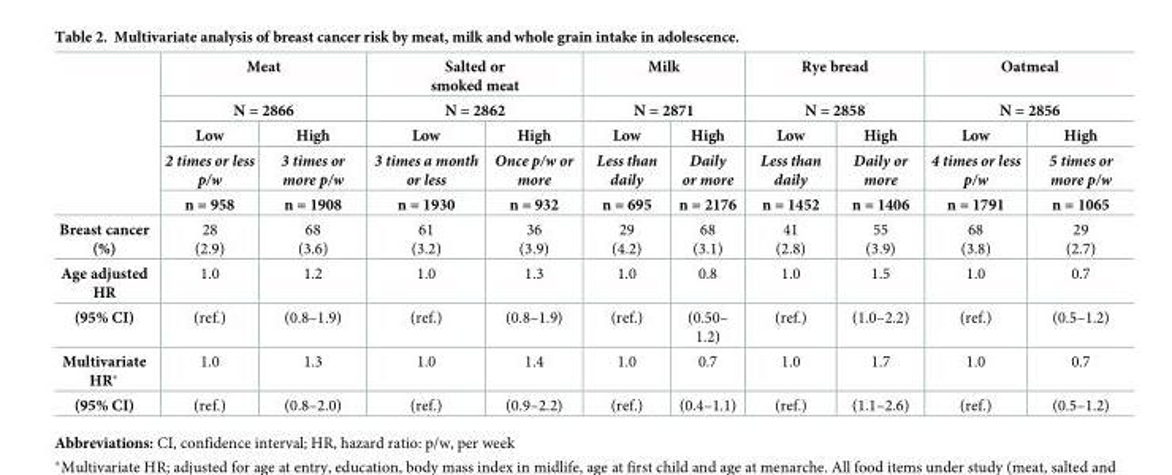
<table><thead><tr><td rowspan="5"></td><td rowspan="2" colspan="2">Meat N = 2866</td><td rowspan="2" colspan="2">Salted or smoked meat N = 2862</td><td rowspan="2" colspan="2">Milk N = 2871</td><td rowspan="2" colspan="2">Rye bread N = 2858</td><td rowspan="2" colspan="2">Oatmeal N = 2856</td></tr><tr></tr><tr><td rowspan="3">Low 2 times or less p/w n = 958</td><td rowspan="3">High 3 times or more p/w n = 1908</td><td rowspan="3">Low 3 times a month or less n = 1930</td><td rowspan="3">High Once p/w or more n = 932</td><td rowspan="3">Low Less than daily n = 695</td><td rowspan="3">High Daily or more n = 2176</td><td rowspan="3">Low Less than daily n = 1452</td><td rowspan="3">High Daily or more n = 1406</td><td rowspan="3">Low 4 times or less p/w n = 1791</td><td rowspan="3">High 5 times or more p/w n = 1065</td></tr><tr></tr><tr></tr></thead><tbody><tr><td>Breast cancer (%)</td><td>28 (2.9)</td><td>68 (3.6)</td><td>61 (3.2)</td><td>36 (3.9)</td><td>29 (4.2)</td><td>68 (3.1)</td><td>41 (2.8)</td><td>55 (3.9)</td><td>68 (3.8)</td><td>29 (2.7)</td></tr><tr><td>Age adjusted HR</td><td>1.0</td><td>1.2</td><td>1.0</td><td>1.3</td><td>1.0</td><td>0.8</td><td>1.0</td><td>1.5</td><td>1.0</td><td>0.7</td></tr><tr><td>(95% CI)</td><td>(ref.)</td><td>(0.8–1.9)</td><td>(ref.)</td><td>(0.8–1.9)</td><td>(ref.)</td><td>(0.50– 1.2)</td><td>(ref.)</td><td>(1.0–2.2)</td><td>(ref.)</td><td>(0.5–1.2)</td></tr><tr><td>Multivariate HR*</td><td>1.0</td><td>1.3</td><td>1.0</td><td>1.4</td><td>1.0</td><td>0.7</td><td>1.0</td><td>1.7</td><td>1.0</td><td>0.7</td></tr><tr><td>(95% CI)</td><td>(ref.)</td><td>(0.8–2.0)</td><td>(ref.)</td><td>(0.9–2.2)</td><td>(ref.)</td><td>(0.4–1.1)</td><td>(ref.)</td><td>(1.1–2.6)</td><td>(ref.)</td><td>(0.5–1.2)</td></tr></tbody></table>